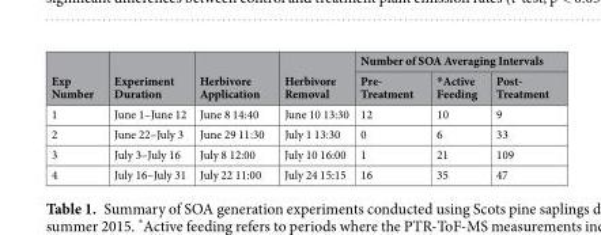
<table><thead><tr><td rowspan="2">Exp Number</td><td rowspan="2">Experiment Duration</td><td rowspan="2">Herbivore Application</td><td rowspan="2">Herbivore Removal</td><td colspan="3">Number of SOA Averaging Intervals</td></tr><tr><td>Pre- Treatment</td><td>*Active Feeding</td><td>Post- Treatment</td></tr></thead><tbody><tr><td>1</td><td>June 1–June 12</td><td>June 8 14:40</td><td>June 10 13:30</td><td>12</td><td>10</td><td>9</td></tr><tr><td>2</td><td>June 22–July 3</td><td>June 29 11:30</td><td>July 1 13:30</td><td>0</td><td>6</td><td>33</td></tr><tr><td>3</td><td>July 3–July 16</td><td>July 8 12:00</td><td>July 10 16:00</td><td>1</td><td>21</td><td>109</td></tr><tr><td>4</td><td>July 16–July 31</td><td>July 22 11:00</td><td>July 24 15:15</td><td>16</td><td>35</td><td>47</td></tr></tbody></table>